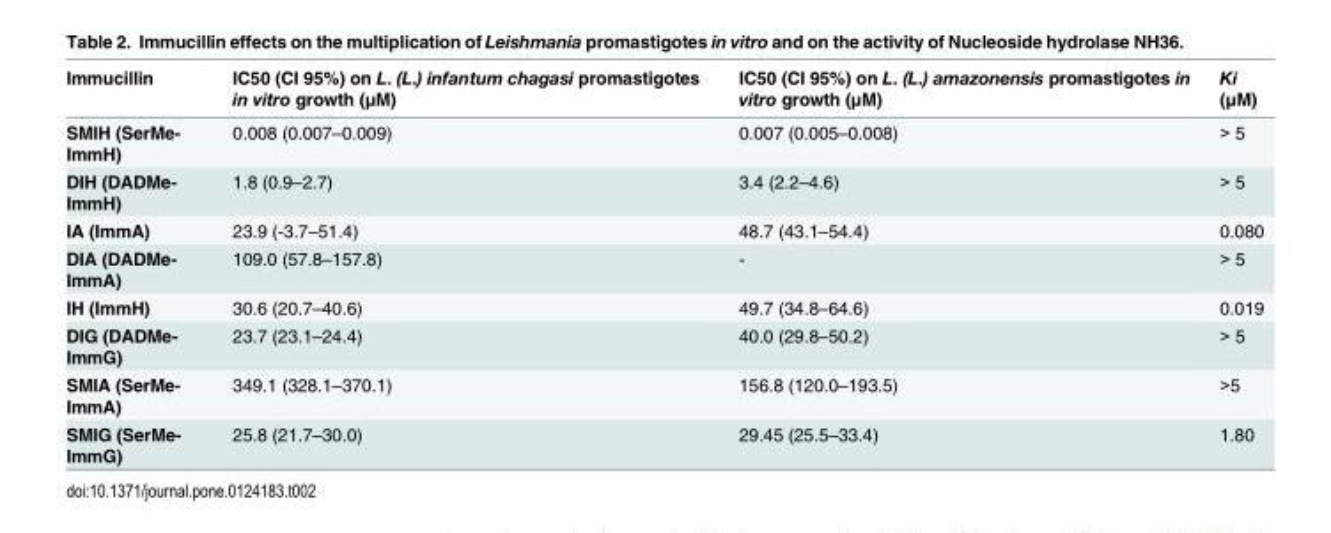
<table><thead><tr><td>Immucillin</td><td>IC50 (CI 95%) on L. (L.) infantum chagasi promastigotes in vitro growth (μM)</td><td>IC50 (CI 95%) on L. (L.) amazonensis promastigotes in vitro growth (μM)</td><td>Ki (μM)</td></tr></thead><tbody><tr><td>SMIH (SerMe- ImmH)</td><td>0.008 (0.007–0.009)</td><td>0.007 (0.005–0.008)</td><td>&gt; 5</td></tr><tr><td>DIH (DADMe- ImmH)</td><td>1.8 (0.9–2.7)</td><td>3.4 (2.2–4.6)</td><td>&gt; 5</td></tr><tr><td>IA (ImmA)</td><td>23.9 (-3.7–51.4)</td><td>48.7 (43.1–54.4)</td><td>0.080</td></tr><tr><td>DIA (DADMe- ImmA)</td><td>109.0 (57.8–157.8)</td><td>-</td><td>&gt; 5</td></tr><tr><td>IH (ImmH)</td><td>30.6 (20.7–40.6)</td><td>49.7 (34.8–64.6)</td><td>0.019</td></tr><tr><td>DIG (DADMe- ImmG)</td><td>23.7 (23.1–24.4)</td><td>40.0 (29.8–50.2)</td><td>&gt; 5</td></tr><tr><td>SMIA (SerMe- ImmA)</td><td>349.1 (328.1–370.1)</td><td>156.8 (120.0–193.5)</td><td>&gt;5</td></tr><tr><td>SMIG (SerMe- ImmG)</td><td>25.8 (21.7–30.0)</td><td>29.45 (25.5–33.4)</td><td>1.80</td></tr></tbody></table>